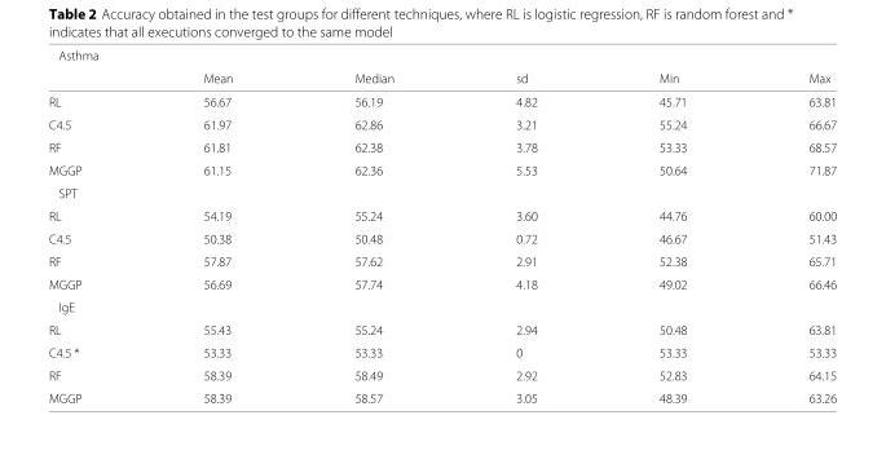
<table><thead><tr><td colspan="6">Asthma</td></tr><tr><td></td><td>Mean</td><td>Median</td><td>sd</td><td>Min</td><td>Max</td></tr></thead><tbody><tr><td>RL</td><td>56.67</td><td>56.19</td><td>4.82</td><td>45.71</td><td>63.81</td></tr><tr><td>C4.5</td><td>61.97</td><td>62.86</td><td>3.21</td><td>55.24</td><td>66.67</td></tr><tr><td>RF</td><td>61.81</td><td>62.38</td><td>3.78</td><td>53.33</td><td>68.57</td></tr><tr><td>MGGP</td><td>61.15</td><td>62.36</td><td>5.53</td><td>50.64</td><td>71.87</td></tr><tr><td colspan="6">SPT</td></tr><tr><td>RL</td><td>54.19</td><td>55.24</td><td>3.60</td><td>44.76</td><td>60.00</td></tr><tr><td>C4.5</td><td>50.38</td><td>50.48</td><td>0.72</td><td>46.67</td><td>51.43</td></tr><tr><td>RF</td><td>57.87</td><td>57.62</td><td>2.91</td><td>52.38</td><td>65.71</td></tr><tr><td>MGGP</td><td>56.69</td><td>57.74</td><td>4.18</td><td>49.02</td><td>66.46</td></tr><tr><td colspan="6">IgE</td></tr><tr><td>RL</td><td>55.43</td><td>55.24</td><td>2.94</td><td>50.48</td><td>63.81</td></tr><tr><td>C4.5 *</td><td>53.33</td><td>53.33</td><td>0</td><td>53.33</td><td>53.33</td></tr><tr><td>RF</td><td>58.39</td><td>58.49</td><td>2.92</td><td>52.83</td><td>64.15</td></tr><tr><td>MGGP</td><td>58.39</td><td>58.57</td><td>3.05</td><td>48.39</td><td>63.26</td></tr></tbody></table>